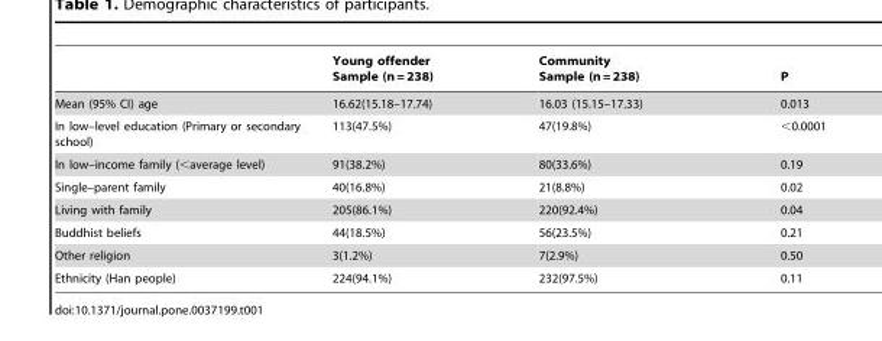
<table><thead><tr><td></td><td>Young offender Sample (n = 238)</td><td>Community Sample (n = 238)</td><td>P</td></tr></thead><tbody><tr><td>Mean (95% CI) age</td><td>16.62(15.18–17.74)</td><td>16.03 (15.15–17.33)</td><td>0.013</td></tr><tr><td>In low–level education (Primary or secondary school)</td><td>113(47.5%)</td><td>47(19.8%)</td><td>&lt;0.0001</td></tr><tr><td>In low–income family (&lt;average level)</td><td>91(38.2%)</td><td>80(33.6%)</td><td>0.19</td></tr><tr><td>Single–parent family</td><td>40(16.8%)</td><td>21(8.8%)</td><td>0.02</td></tr><tr><td>Living with family</td><td>205(86.1%)</td><td>220(92.4%)</td><td>0.04</td></tr><tr><td>Buddhist beliefs</td><td>44(18.5%)</td><td>56(23.5%)</td><td>0.21</td></tr><tr><td>Other religion</td><td>3(1.2%)</td><td>7(2.9%)</td><td>0.50</td></tr><tr><td>Ethnicity (Han people)</td><td>224(94.1%)</td><td>232(97.5%)</td><td>0.11</td></tr></tbody></table>